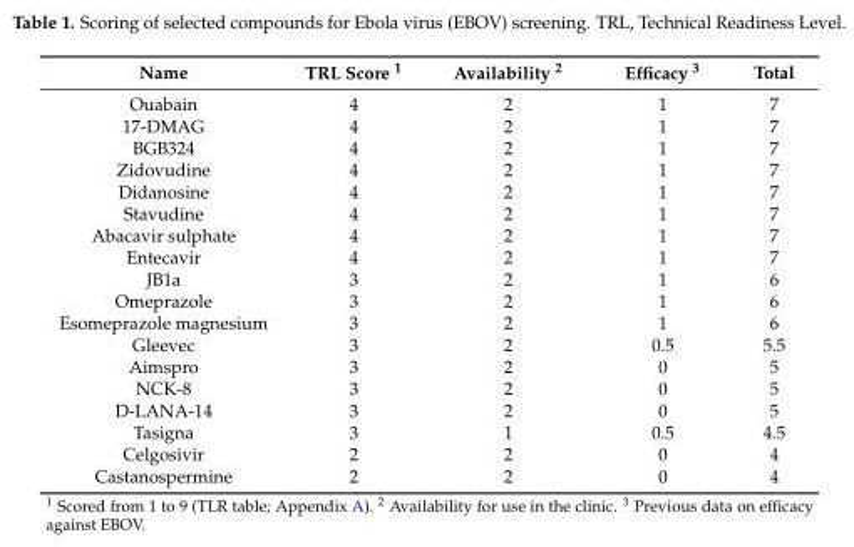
<table><thead><tr><td>Name</td><td>TRL Score <sup>1</sup></td><td>Availability <sup>2</sup></td><td>Efficacy <sup>3</sup></td><td>Total</td></tr></thead><tbody><tr><td>Ouabain</td><td>4</td><td>2</td><td>1</td><td>7</td></tr><tr><td>17-DMAG</td><td>4</td><td>2</td><td>1</td><td>7</td></tr><tr><td>BGB324</td><td>4</td><td>2</td><td>1</td><td>7</td></tr><tr><td>Zidovudine</td><td>4</td><td>2</td><td>1</td><td>7</td></tr><tr><td>Didanosine</td><td>4</td><td>2</td><td>1</td><td>7</td></tr><tr><td>Stavudine</td><td>4</td><td>2</td><td>1</td><td>7</td></tr><tr><td>Abacavir sulphate</td><td>4</td><td>2</td><td>1</td><td>7</td></tr><tr><td>Entecavir</td><td>4</td><td>2</td><td>1</td><td>7</td></tr><tr><td>JB1a</td><td>3</td><td>2</td><td>1</td><td>6</td></tr><tr><td>Omeprazole</td><td>3</td><td>2</td><td>1</td><td>6</td></tr><tr><td>Esomeprazole magnesium</td><td>3</td><td>2</td><td>1</td><td>6</td></tr><tr><td>Gleevec</td><td>3</td><td>2</td><td>0.5</td><td>5.5</td></tr><tr><td>Aimspro</td><td>3</td><td>2</td><td>0</td><td>5</td></tr><tr><td>NCK-8</td><td>3</td><td>2</td><td>0</td><td>5</td></tr><tr><td>D-LANA-14</td><td>3</td><td>2</td><td>0</td><td>5</td></tr><tr><td>Tasigna</td><td>3</td><td>1</td><td>0.5</td><td>4.5</td></tr><tr><td>Celgosivir</td><td>2</td><td>2</td><td>0</td><td>4</td></tr><tr><td>Castanospermine</td><td>2</td><td>2</td><td>0</td><td>4</td></tr></tbody></table>